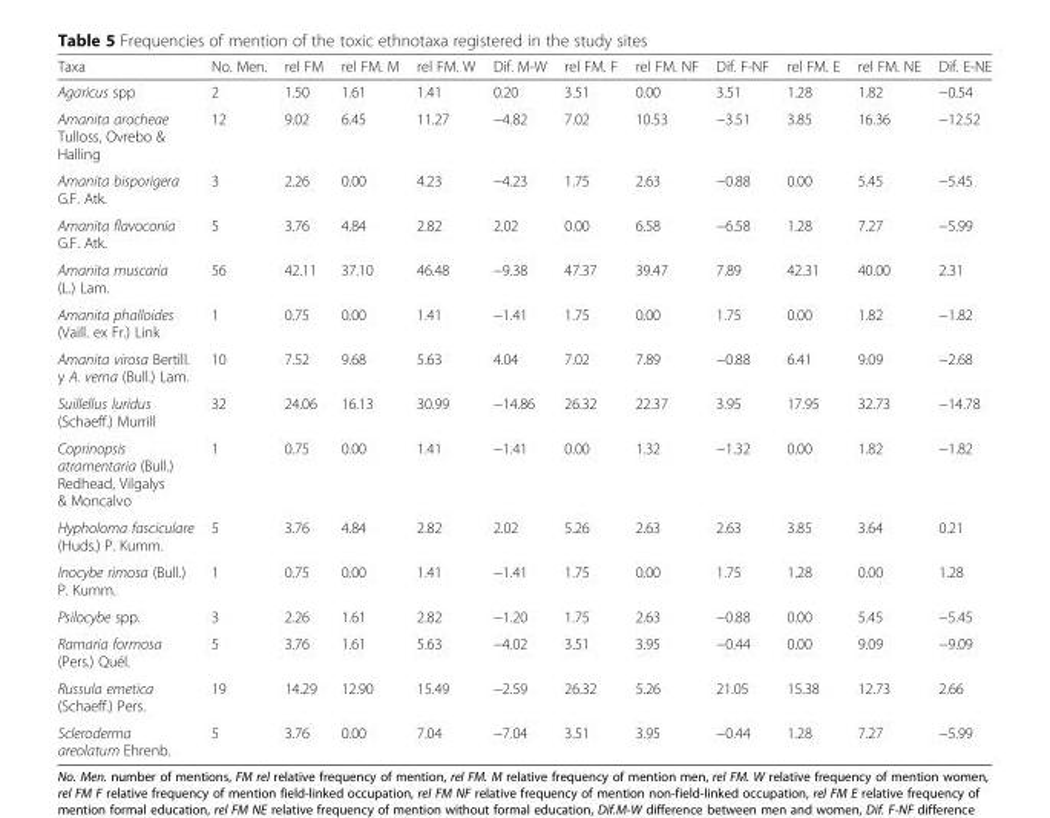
<table><thead><tr><td>Taxa</td><td>No. Men.</td><td>rel FM</td><td>rel FM. M</td><td>rel FM. W</td><td>Dif. M-W</td><td>rel FM. F</td><td>rel FM. NF</td><td>Dif. F-NF</td><td>rel FM. E</td><td>rel FM. NE</td><td>Dif. E-NE</td></tr></thead><tbody><tr><td>Agaricus spp</td><td>2</td><td>1.50</td><td>1.61</td><td>1.41</td><td>0.20</td><td>3.51</td><td>0.00</td><td>3.51</td><td>1.28</td><td>1.82</td><td>−0.54</td></tr><tr><td>Amanita arocheae Tulloss, Ovrebo &amp; Halling</td><td>12</td><td>9.02</td><td>6.45</td><td>11.27</td><td>−4.82</td><td>7.02</td><td>10.53</td><td>−3.51</td><td>3.85</td><td>16.36</td><td>−12.52</td></tr><tr><td>Amanita bisporigera G.F. Atk.</td><td>3</td><td>2.26</td><td>0.00</td><td>4.23</td><td>−4.23</td><td>1.75</td><td>2.63</td><td>−0.88</td><td>0.00</td><td>5.45</td><td>−5.45</td></tr><tr><td>Amanita flavoconia G.F. Atk.</td><td>5</td><td>3.76</td><td>4.84</td><td>2.82</td><td>2.02</td><td>0.00</td><td>6.58</td><td>−6.58</td><td>1.28</td><td>7.27</td><td>−5.99</td></tr><tr><td>Amanita muscaria (L.) Lam.</td><td>56</td><td>42.11</td><td>37.10</td><td>46.48</td><td>−9.38</td><td>47.37</td><td>39.47</td><td>7.89</td><td>42.31</td><td>40.00</td><td>2.31</td></tr><tr><td>Amanita phalloides (Vaill. ex Fr.) Link</td><td>1</td><td>0.75</td><td>0.00</td><td>1.41</td><td>−1.41</td><td>1.75</td><td>0.00</td><td>1.75</td><td>0.00</td><td>1.82</td><td>−1.82</td></tr><tr><td>Amanita virosa Bertill. y A. verna (Bull.) Lam.</td><td>10</td><td>7.52</td><td>9.68</td><td>5.63</td><td>4.04</td><td>7.02</td><td>7.89</td><td>−0.88</td><td>6.41</td><td>9.09</td><td>−2.68</td></tr><tr><td>Suillellus luridus (Schaeff.) Murrill</td><td>32</td><td>24.06</td><td>16.13</td><td>30.99</td><td>−14.86</td><td>26.32</td><td>22.37</td><td>3.95</td><td>17.95</td><td>32.73</td><td>−14.78</td></tr><tr><td>Coprinopsis atramentaria (Bull.) Redhead, Vilgalys &amp; Moncalvo</td><td>1</td><td>0.75</td><td>0.00</td><td>1.41</td><td>−1.41</td><td>0.00</td><td>1.32</td><td>−1.32</td><td>0.00</td><td>1.82</td><td>−1.82</td></tr><tr><td>Hypholoma fasciculare (Huds.) P. Kumm.</td><td>5</td><td>3.76</td><td>4.84</td><td>2.82</td><td>2.02</td><td>5.26</td><td>2.63</td><td>2.63</td><td>3.85</td><td>3.64</td><td>0.21</td></tr><tr><td>Inocybe rimosa (Bull.) P. Kumm.</td><td>1</td><td>0.75</td><td>0.00</td><td>1.41</td><td>−1.41</td><td>1.75</td><td>0.00</td><td>1.75</td><td>1.28</td><td>0.00</td><td>1.28</td></tr><tr><td>Psilocybe spp.</td><td>3</td><td>2.26</td><td>1.61</td><td>2.82</td><td>−1.20</td><td>1.75</td><td>2.63</td><td>−0.88</td><td>0.00</td><td>5.45</td><td>−5.45</td></tr><tr><td>Ramaria formosa (Pers.) Quél.</td><td>5</td><td>3.76</td><td>1.61</td><td>5.63</td><td>−4.02</td><td>3.51</td><td>3.95</td><td>−0.44</td><td>0.00</td><td>9.09</td><td>−9.09</td></tr><tr><td>Russula emetica (Schaeff.) Pers.</td><td>19</td><td>14.29</td><td>12.90</td><td>15.49</td><td>−2.59</td><td>26.32</td><td>5.26</td><td>21.05</td><td>15.38</td><td>12.73</td><td>2.66</td></tr><tr><td>Scleroderma areolatum Ehrenb.</td><td>5</td><td>3.76</td><td>0.00</td><td>7.04</td><td>−7.04</td><td>3.51</td><td>3.95</td><td>−0.44</td><td>1.28</td><td>7.27</td><td>−5.99</td></tr></tbody></table>